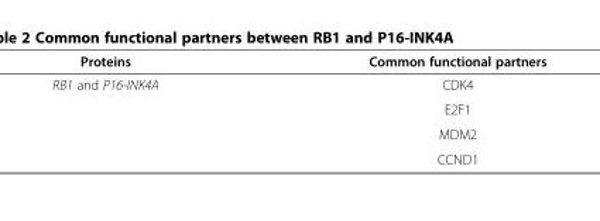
<table><thead><tr><td>Proteins</td><td>Common functional partners</td></tr></thead><tbody><tr><td rowspan="4">RB1 and P16-INK4A</td><td>CDK4</td></tr><tr><td>E2F1</td></tr><tr><td>MDM2</td></tr><tr><td>CCND1</td></tr></tbody></table>